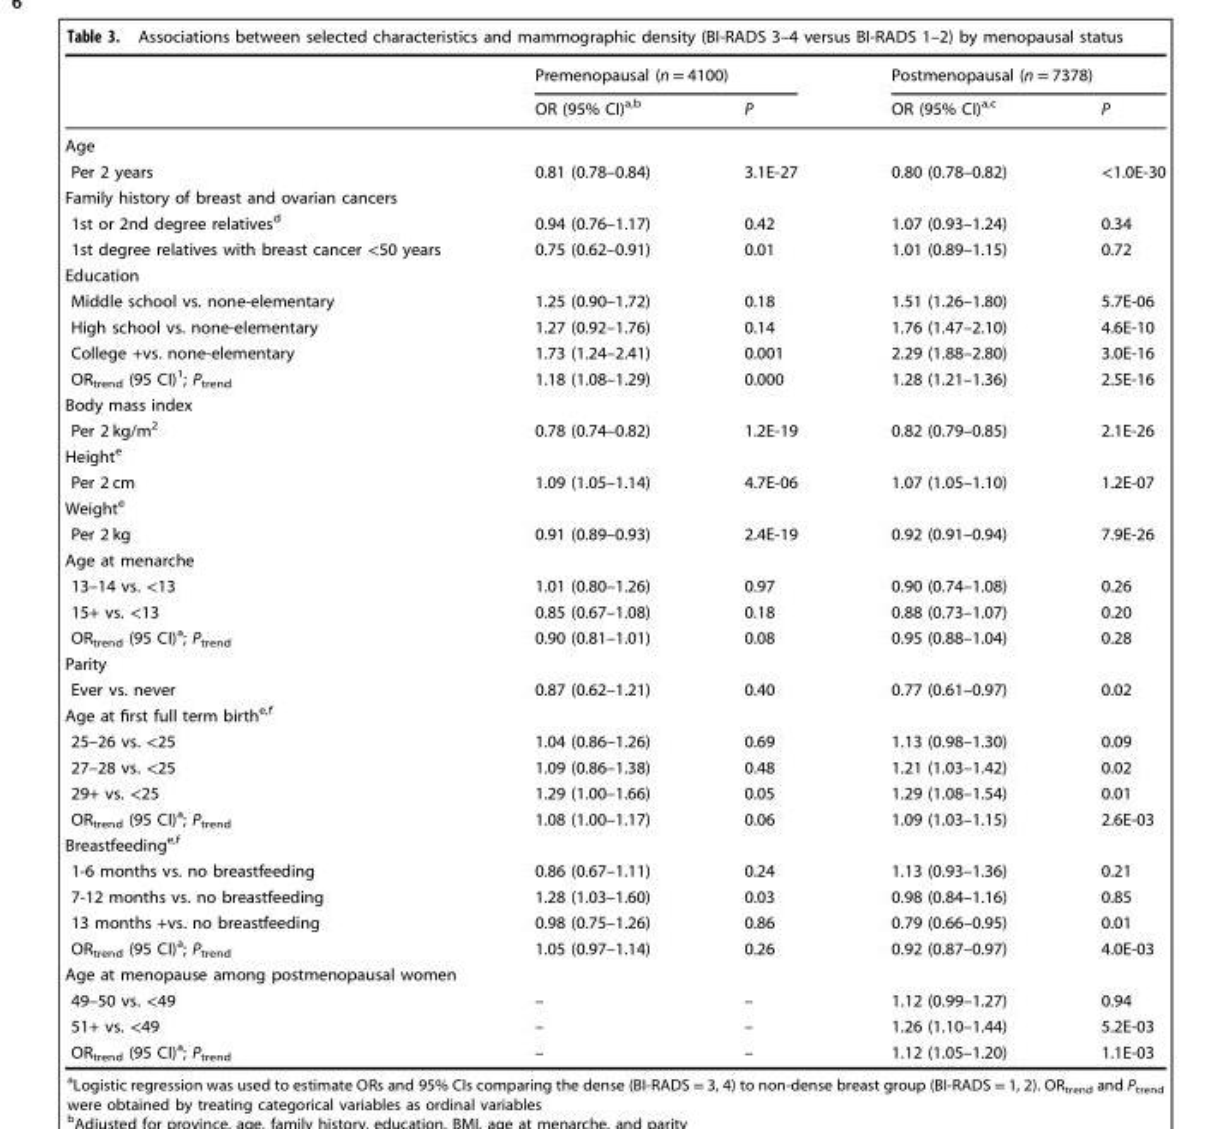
<table><thead><tr><td rowspan="2"></td><td colspan="2">Premenopausal (n = 4100)</td><td colspan="2">Postmenopausal (n = 7378)</td></tr><tr><td>OR (95% CI)<sup>a,b</sup></td><td>P</td><td>OR (95% CI)<sup>a,c</sup></td><td>P</td></tr></thead><tbody><tr><td colspan="5">Age</td></tr><tr><td>Per 2 years</td><td>0.81 (0.78–0.84)</td><td>3.1E-27</td><td>0.80 (0.78–0.82)</td><td>&lt;1.0E-30</td></tr><tr><td colspan="5">Family history of breast and ovarian cancers</td></tr><tr><td>1st or 2nd degree relatives<sup>d</sup></td><td>0.94 (0.76–1.17)</td><td>0.42</td><td>1.07 (0.93–1.24)</td><td>0.34</td></tr><tr><td>1st degree relatives with breast cancer &lt;50 years</td><td>0.75 (0.62–0.91)</td><td>0.01</td><td>1.01 (0.89–1.15)</td><td>0.72</td></tr><tr><td colspan="5">Education</td></tr><tr><td>Middle school vs. none-elementary</td><td>1.25 (0.90–1.72)</td><td>0.18</td><td>1.51 (1.26–1.80)</td><td>5.7E-06</td></tr><tr><td>High school vs. none-elementary</td><td>1.27 (0.92–1.76)</td><td>0.14</td><td>1.76 (1.47–2.10)</td><td>4.6E-10</td></tr><tr><td>College +vs. none-elementary</td><td>1.73 (1.24–2.41)</td><td>0.001</td><td>2.29 (1.88–2.80)</td><td>3.0E-16</td></tr><tr><td>OR<sub>trend</sub> (95 CI)<sup>1</sup>; P<sub>trend</sub></td><td>1.18 (1.08–1.29)</td><td>0.000</td><td>1.28 (1.21–1.36)</td><td>2.5E-16</td></tr><tr><td colspan="5">Body mass index</td></tr><tr><td>Per 2 kg/m<sup>2</sup></td><td>0.78 (0.74–0.82)</td><td>1.2E-19</td><td>0.82 (0.79–0.85)</td><td>2.1E-26</td></tr><tr><td colspan="5">Height<sup>e</sup></td></tr><tr><td>Per 2 cm</td><td>1.09 (1.05–1.14)</td><td>4.7E-06</td><td>1.07 (1.05–1.10)</td><td>1.2E-07</td></tr><tr><td colspan="5">Weight<sup>e</sup></td></tr><tr><td>Per 2 kg</td><td>0.91 (0.89–0.93)</td><td>2.4E-19</td><td>0.92 (0.91–0.94)</td><td>7.9E-26</td></tr><tr><td colspan="5">Age at menarche</td></tr><tr><td>13–14 vs. &lt;13</td><td>1.01 (0.80–1.26)</td><td>0.97</td><td>0.90 (0.74–1.08)</td><td>0.26</td></tr><tr><td>15+ vs. &lt;13</td><td>0.85 (0.67–1.08)</td><td>0.18</td><td>0.88 (0.73–1.07)</td><td>0.20</td></tr><tr><td>OR<sub>trend</sub> (95 CI)<sup>a</sup>; P<sub>trend</sub></td><td>0.90 (0.81–1.01)</td><td>0.08</td><td>0.95 (0.88–1.04)</td><td>0.28</td></tr><tr><td colspan="5">Parity</td></tr><tr><td>Ever vs. never</td><td>0.87 (0.62–1.21)</td><td>0.40</td><td>0.77 (0.61–0.97)</td><td>0.02</td></tr><tr><td colspan="5">Age at first full term birth<sup>e,f</sup></td></tr><tr><td>25–26 vs. &lt;25</td><td>1.04 (0.86–1.26)</td><td>0.69</td><td>1.13 (0.98–1.30)</td><td>0.09</td></tr><tr><td>27–28 vs. &lt;25</td><td>1.09 (0.86–1.38)</td><td>0.48</td><td>1.21 (1.03–1.42)</td><td>0.02</td></tr><tr><td>29+ vs. &lt;25</td><td>1.29 (1.00–1.66)</td><td>0.05</td><td>1.29 (1.08–1.54)</td><td>0.01</td></tr><tr><td>OR<sub>trend</sub> (95 CI)<sup>a</sup>; P<sub>trend</sub></td><td>1.08 (1.00–1.17)</td><td>0.06</td><td>1.09 (1.03–1.15)</td><td>2.6E-03</td></tr><tr><td colspan="5">Breastfeeding<sup>e,f</sup></td></tr><tr><td>1-6 months vs. no breastfeeding</td><td>0.86 (0.67–1.11)</td><td>0.24</td><td>1.13 (0.93–1.36)</td><td>0.21</td></tr><tr><td>7-12 months vs. no breastfeeding</td><td>1.28 (1.03–1.60)</td><td>0.03</td><td>0.98 (0.84–1.16)</td><td>0.85</td></tr><tr><td>13 months +vs. no breastfeeding</td><td>0.98 (0.75–1.26)</td><td>0.86</td><td>0.79 (0.66–0.95)</td><td>0.01</td></tr><tr><td>OR<sub>trend</sub> (95 CI)<sup>a</sup>; P<sub>trend</sub></td><td>1.05 (0.97–1.14)</td><td>0.26</td><td>0.92 (0.87–0.97)</td><td>4.0E-03</td></tr><tr><td colspan="5">Age at menopause among postmenopausal women</td></tr><tr><td>49–50 vs. &lt;49</td><td>–</td><td>–</td><td>1.12 (0.99–1.27)</td><td>0.94</td></tr><tr><td>51+ vs. &lt;49</td><td>–</td><td>–</td><td>1.26 (1.10–1.44)</td><td>5.2E-03</td></tr><tr><td>OR<sub>trend</sub> (95 CI)<sup>a</sup>; P<sub>trend</sub></td><td>–</td><td>–</td><td>1.12 (1.05–1.20)</td><td>1.1E-03</td></tr></tbody></table>